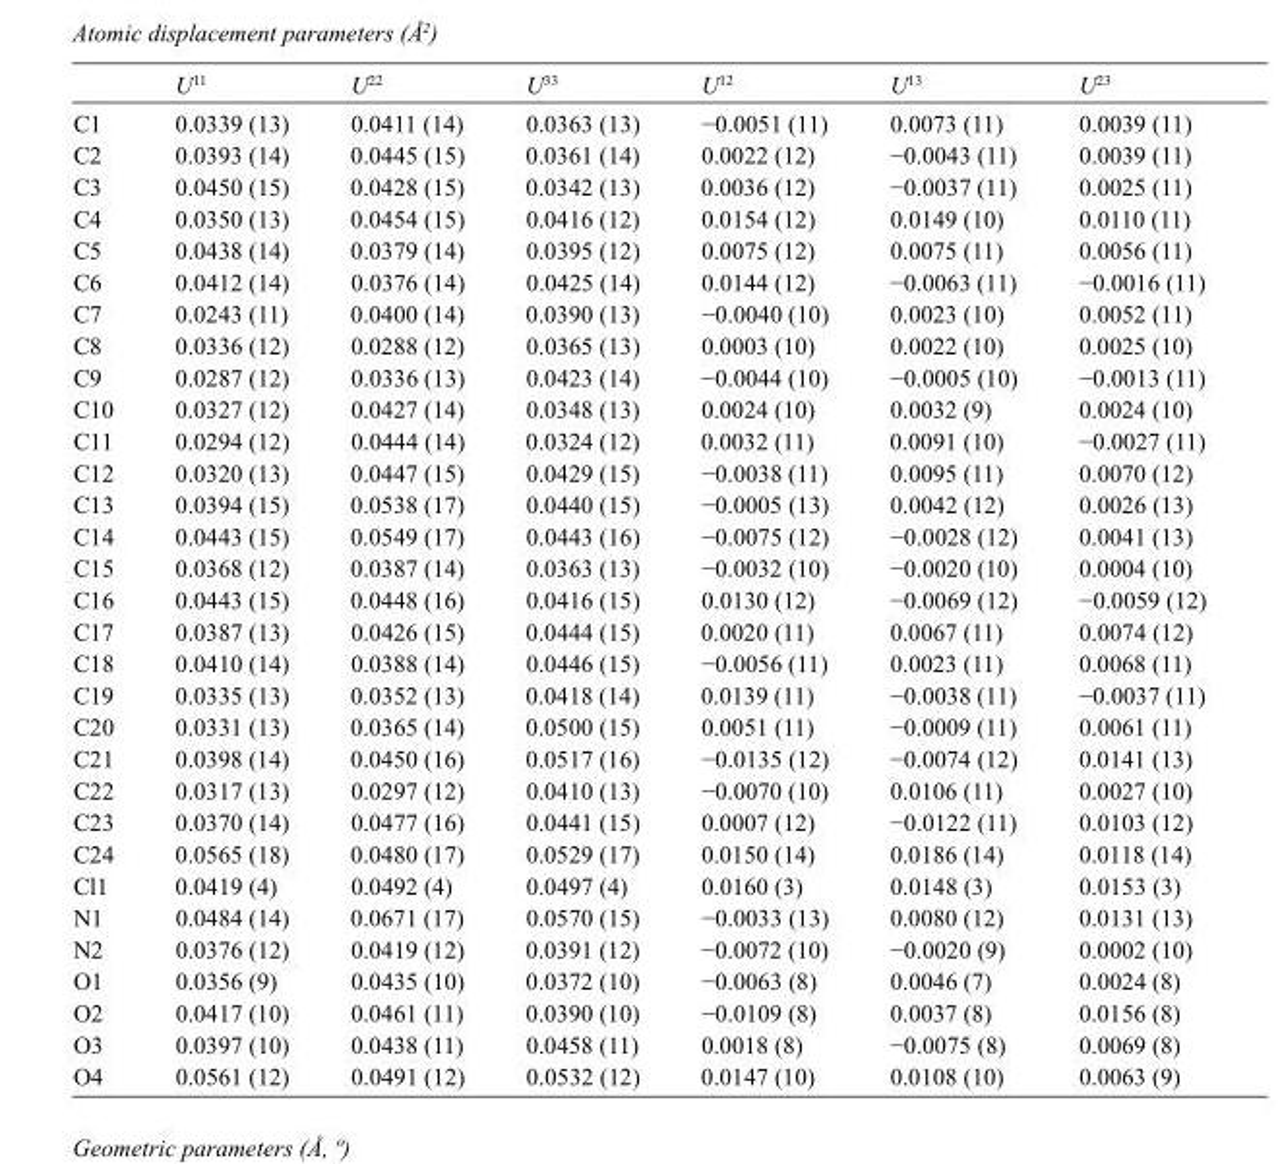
<table><thead><tr><td></td><td>U<sup>11</sup></td><td>U<sup>22</sup></td><td>U<sup>33</sup></td><td>U<sup>12</sup></td><td>U<sup>13</sup></td><td>U<sup>23</sup></td></tr></thead><tbody><tr><td>C1</td><td>0.0339 (13)</td><td>0.0411 (14)</td><td>0.0363 (13)</td><td>−0.0051 (11)</td><td>0.0073 (11)</td><td>0.0039 (11)</td></tr><tr><td>C2</td><td>0.0393 (14)</td><td>0.0445 (15)</td><td>0.0361 (14)</td><td>0.0022 (12)</td><td>−0.0043 (11)</td><td>0.0039 (11)</td></tr><tr><td>C3</td><td>0.0450 (15)</td><td>0.0428 (15)</td><td>0.0342 (13)</td><td>0.0036 (12)</td><td>−0.0037 (11)</td><td>0.0025 (11)</td></tr><tr><td>C4</td><td>0.0350 (13)</td><td>0.0454 (15)</td><td>0.0416 (12)</td><td>0.0154 (12)</td><td>0.0149 (10)</td><td>0.0110 (11)</td></tr><tr><td>C5</td><td>0.0438 (14)</td><td>0.0379 (14)</td><td>0.0395 (12)</td><td>0.0075 (12)</td><td>0.0075 (11)</td><td>0.0056 (11)</td></tr><tr><td>C6</td><td>0.0412 (14)</td><td>0.0376 (14)</td><td>0.0425 (14)</td><td>0.0144 (12)</td><td>−0.0063 (11)</td><td>−0.0016 (11)</td></tr><tr><td>C7</td><td>0.0243 (11)</td><td>0.0400 (14)</td><td>0.0390 (13)</td><td>−0.0040 (10)</td><td>0.0023 (10)</td><td>0.0052 (11)</td></tr><tr><td>C8</td><td>0.0336 (12)</td><td>0.0288 (12)</td><td>0.0365 (13)</td><td>0.0003 (10)</td><td>0.0022 (10)</td><td>0.0025 (10)</td></tr><tr><td>C9</td><td>0.0287 (12)</td><td>0.0336 (13)</td><td>0.0423 (14)</td><td>−0.0044 (10)</td><td>−0.0005 (10)</td><td>−0.0013 (11)</td></tr><tr><td>C10</td><td>0.0327 (12)</td><td>0.0427 (14)</td><td>0.0348 (13)</td><td>0.0024 (10)</td><td>0.0032 (9)</td><td>0.0024 (10)</td></tr><tr><td>C11</td><td>0.0294 (12)</td><td>0.0444 (14)</td><td>0.0324 (12)</td><td>0.0032 (11)</td><td>0.0091 (10)</td><td>−0.0027 (11)</td></tr><tr><td>C12</td><td>0.0320 (13)</td><td>0.0447 (15)</td><td>0.0429 (15)</td><td>−0.0038 (11)</td><td>0.0095 (11)</td><td>0.0070 (12)</td></tr><tr><td>C13</td><td>0.0394 (15)</td><td>0.0538 (17)</td><td>0.0440 (15)</td><td>−0.0005 (13)</td><td>0.0042 (12)</td><td>0.0026 (13)</td></tr><tr><td>C14</td><td>0.0443 (15)</td><td>0.0549 (17)</td><td>0.0443 (16)</td><td>−0.0075 (12)</td><td>−0.0028 (12)</td><td>0.0041 (13)</td></tr><tr><td>C15</td><td>0.0368 (12)</td><td>0.0387 (14)</td><td>0.0363 (13)</td><td>−0.0032 (10)</td><td>−0.0020 (10)</td><td>0.0004 (10)</td></tr><tr><td>C16</td><td>0.0443 (15)</td><td>0.0448 (16)</td><td>0.0416 (15)</td><td>0.0130 (12)</td><td>−0.0069 (12)</td><td>−0.0059 (12)</td></tr><tr><td>C17</td><td>0.0387 (13)</td><td>0.0426 (15)</td><td>0.0444 (15)</td><td>0.0020 (11)</td><td>0.0067 (11)</td><td>0.0074 (12)</td></tr><tr><td>C18</td><td>0.0410 (14)</td><td>0.0388 (14)</td><td>0.0446 (15)</td><td>−0.0056 (11)</td><td>0.0023 (11)</td><td>0.0068 (11)</td></tr><tr><td>C19</td><td>0.0335 (13)</td><td>0.0352 (13)</td><td>0.0418 (14)</td><td>0.0139 (11)</td><td>−0.0038 (11)</td><td>−0.0037 (11)</td></tr><tr><td>C20</td><td>0.0331 (13)</td><td>0.0365 (14)</td><td>0.0500 (15)</td><td>0.0051 (11)</td><td>−0.0009 (11)</td><td>0.0061 (11)</td></tr><tr><td>C21</td><td>0.0398 (14)</td><td>0.0450 (16)</td><td>0.0517 (16)</td><td>−0.0135 (12)</td><td>−0.0074 (12)</td><td>0.0141 (13)</td></tr><tr><td>C22</td><td>0.0317 (13)</td><td>0.0297 (12)</td><td>0.0410 (13)</td><td>−0.0070 (10)</td><td>0.0106 (11)</td><td>0.0027 (10)</td></tr><tr><td>C23</td><td>0.0370 (14)</td><td>0.0477 (16)</td><td>0.0441 (15)</td><td>0.0007 (12)</td><td>−0.0122 (11)</td><td>0.0103 (12)</td></tr><tr><td>C24</td><td>0.0565 (18)</td><td>0.0480 (17)</td><td>0.0529 (17)</td><td>0.0150 (14)</td><td>0.0186 (14)</td><td>0.0118 (14)</td></tr><tr><td>Cl1</td><td>0.0419 (4)</td><td>0.0492 (4)</td><td>0.0497 (4)</td><td>0.0160 (3)</td><td>0.0148 (3)</td><td>0.0153 (3)</td></tr><tr><td>N1</td><td>0.0484 (14)</td><td>0.0671 (17)</td><td>0.0570 (15)</td><td>−0.0033 (13)</td><td>0.0080 (12)</td><td>0.0131 (13)</td></tr><tr><td>N2</td><td>0.0376 (12)</td><td>0.0419 (12)</td><td>0.0391 (12)</td><td>−0.0072 (10)</td><td>−0.0020 (9)</td><td>0.0002 (10)</td></tr><tr><td>O1</td><td>0.0356 (9)</td><td>0.0435 (10)</td><td>0.0372 (10)</td><td>−0.0063 (8)</td><td>0.0046 (7)</td><td>0.0024 (8)</td></tr><tr><td>O2</td><td>0.0417 (10)</td><td>0.0461 (11)</td><td>0.0390 (10)</td><td>−0.0109 (8)</td><td>0.0037 (8)</td><td>0.0156 (8)</td></tr><tr><td>O3</td><td>0.0397 (10)</td><td>0.0438 (11)</td><td>0.0458 (11)</td><td>0.0018 (8)</td><td>−0.0075 (8)</td><td>0.0069 (8)</td></tr><tr><td>O4</td><td>0.0561 (12)</td><td>0.0491 (12)</td><td>0.0532 (12)</td><td>0.0147 (10)</td><td>0.0108 (10)</td><td>0.0063 (9)</td></tr></tbody></table>